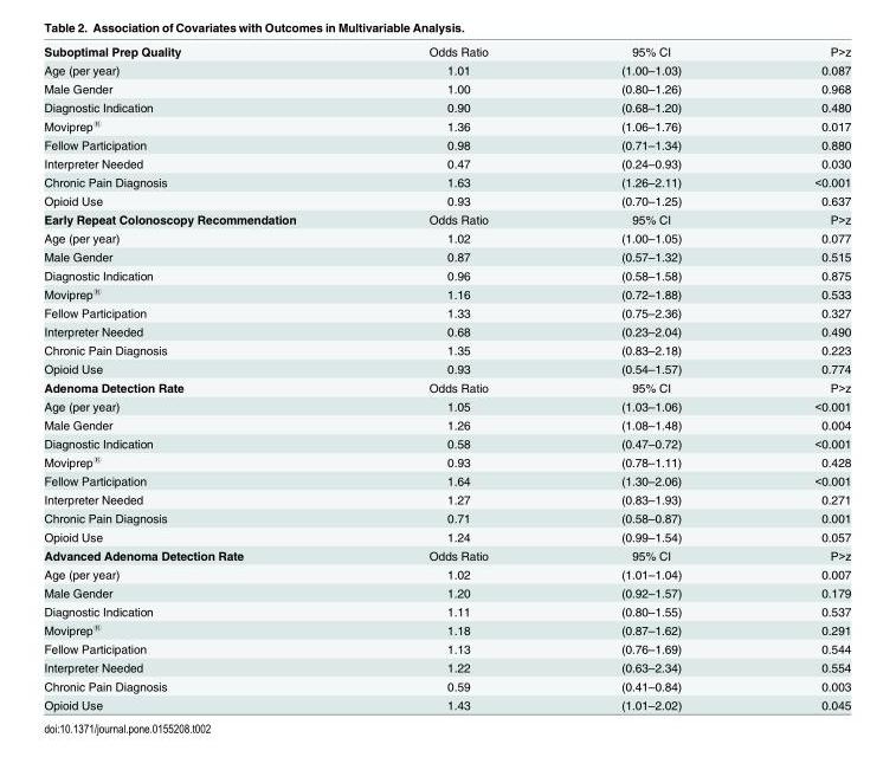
<table><tbody><tr><td>Suboptimal Prep Quality</td><td>Odds Ratio</td><td>95% CI</td><td>P&gt;z</td></tr><tr><td>Age (per year)</td><td>1.01</td><td>(1.00–1.03)</td><td>0.087</td></tr><tr><td>Male Gender</td><td>1.00</td><td>(0.80–1.26)</td><td>0.968</td></tr><tr><td>Diagnostic Indication</td><td>0.90</td><td>(0.68–1.20)</td><td>0.480</td></tr><tr><td>Moviprep<sup>®</sup></td><td>1.36</td><td>(1.06–1.76)</td><td>0.017</td></tr><tr><td>Fellow Participation</td><td>0.98</td><td>(0.71–1.34)</td><td>0.880</td></tr><tr><td>Interpreter Needed</td><td>0.47</td><td>(0.24–0.93)</td><td>0.030</td></tr><tr><td>Chronic Pain Diagnosis</td><td>1.63</td><td>(1.26–2.11)</td><td>&lt;0.001</td></tr><tr><td>Opioid Use</td><td>0.93</td><td>(0.70–1.25)</td><td>0.637</td></tr><tr><td>Early Repeat Colonoscopy Recommendation</td><td>Odds Ratio</td><td>95% CI</td><td>P&gt;z</td></tr><tr><td>Age (per year)</td><td>1.02</td><td>(1.00–1.05)</td><td>0.077</td></tr><tr><td>Male Gender</td><td>0.87</td><td>(0.57–1.32)</td><td>0.515</td></tr><tr><td>Diagnostic Indication</td><td>0.96</td><td>(0.58–1.58)</td><td>0.875</td></tr><tr><td>Moviprep<sup>®</sup></td><td>1.16</td><td>(0.72–1.88)</td><td>0.533</td></tr><tr><td>Fellow Participation</td><td>1.33</td><td>(0.75–2.36)</td><td>0.327</td></tr><tr><td>Interpreter Needed</td><td>0.68</td><td>(0.23–2.04)</td><td>0.490</td></tr><tr><td>Chronic Pain Diagnosis</td><td>1.35</td><td>(0.83–2.18)</td><td>0.223</td></tr><tr><td>Opioid Use</td><td>0.93</td><td>(0.54–1.57)</td><td>0.774</td></tr><tr><td>Adenoma Detection Rate</td><td>Odds Ratio</td><td>95% CI</td><td>P&gt;z</td></tr><tr><td>Age (per year)</td><td>1.05</td><td>(1.03–1.06)</td><td>&lt;0.001</td></tr><tr><td>Male Gender</td><td>1.26</td><td>(1.08–1.48)</td><td>0.004</td></tr><tr><td>Diagnostic Indication</td><td>0.58</td><td>(0.47–0.72)</td><td>&lt;0.001</td></tr><tr><td>Moviprep<sup>®</sup></td><td>0.93</td><td>(0.78–1.11)</td><td>0.428</td></tr><tr><td>Fellow Participation</td><td>1.64</td><td>(1.30–2.06)</td><td>&lt;0.001</td></tr><tr><td>Interpreter Needed</td><td>1.27</td><td>(0.83–1.93)</td><td>0.271</td></tr><tr><td>Chronic Pain Diagnosis</td><td>0.71</td><td>(0.58–0.87)</td><td>0.001</td></tr><tr><td>Opioid Use</td><td>1.24</td><td>(0.99–1.54)</td><td>0.057</td></tr><tr><td>Advanced Adenoma Detection Rate</td><td>Odds Ratio</td><td>95% CI</td><td>P&gt;z</td></tr><tr><td>Age (per year)</td><td>1.02</td><td>(1.01–1.04)</td><td>0.007</td></tr><tr><td>Male Gender</td><td>1.20</td><td>(0.92–1.57)</td><td>0.179</td></tr><tr><td>Diagnostic Indication</td><td>1.11</td><td>(0.80–1.55)</td><td>0.537</td></tr><tr><td>Moviprep<sup>®</sup></td><td>1.18</td><td>(0.87–1.62)</td><td>0.291</td></tr><tr><td>Fellow Participation</td><td>1.13</td><td>(0.76–1.69)</td><td>0.544</td></tr><tr><td>Interpreter Needed</td><td>1.22</td><td>(0.63–2.34)</td><td>0.554</td></tr><tr><td>Chronic Pain Diagnosis</td><td>0.59</td><td>(0.41–0.84)</td><td>0.003</td></tr><tr><td>Opioid Use</td><td>1.43</td><td>(1.01–2.02)</td><td>0.045</td></tr></tbody></table>